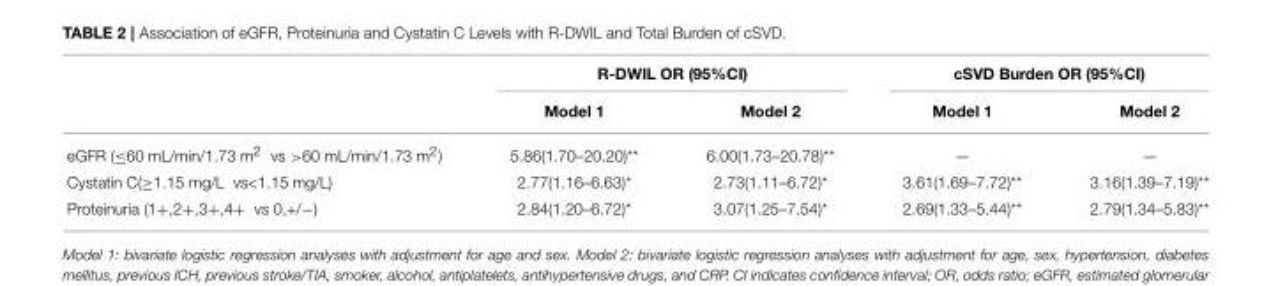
<table><thead><tr><td rowspan="2"></td><td colspan="2">R-DWIL OR (95%CI)</td><td colspan="2">cSVD Burden OR (95%CI)</td></tr><tr><td>Model 1</td><td>Model 2</td><td>Model 1</td><td>Model 2</td></tr></thead><tbody><tr><td>eGFR (≤60 mL/min/1.73 m<sup>2</sup> vs &gt;60 mL/min/1.73 m<sup>2</sup>)</td><td>5.86(1.70–20.20)**</td><td>6.00(1.73–20.78)**</td><td>—</td><td>—</td></tr><tr><td>Cystatin C(≥1.15 mg/L vs&lt;1.15 mg/L)</td><td>2.77(1.16–6.63)*</td><td>2.73(1.11–6.72)*</td><td>3.61(1.69–7.72)**</td><td>3.16(1.39–7.19)**</td></tr><tr><td>Proteinuria (1+,2+,3+,4+ vs 0,+/−)</td><td>2.84(1.20–6.72)*</td><td>3.07(1.25–7.54)*</td><td>2.69(1.33–5.44)**</td><td>2.79(1.34–5.83)**</td></tr></tbody></table>